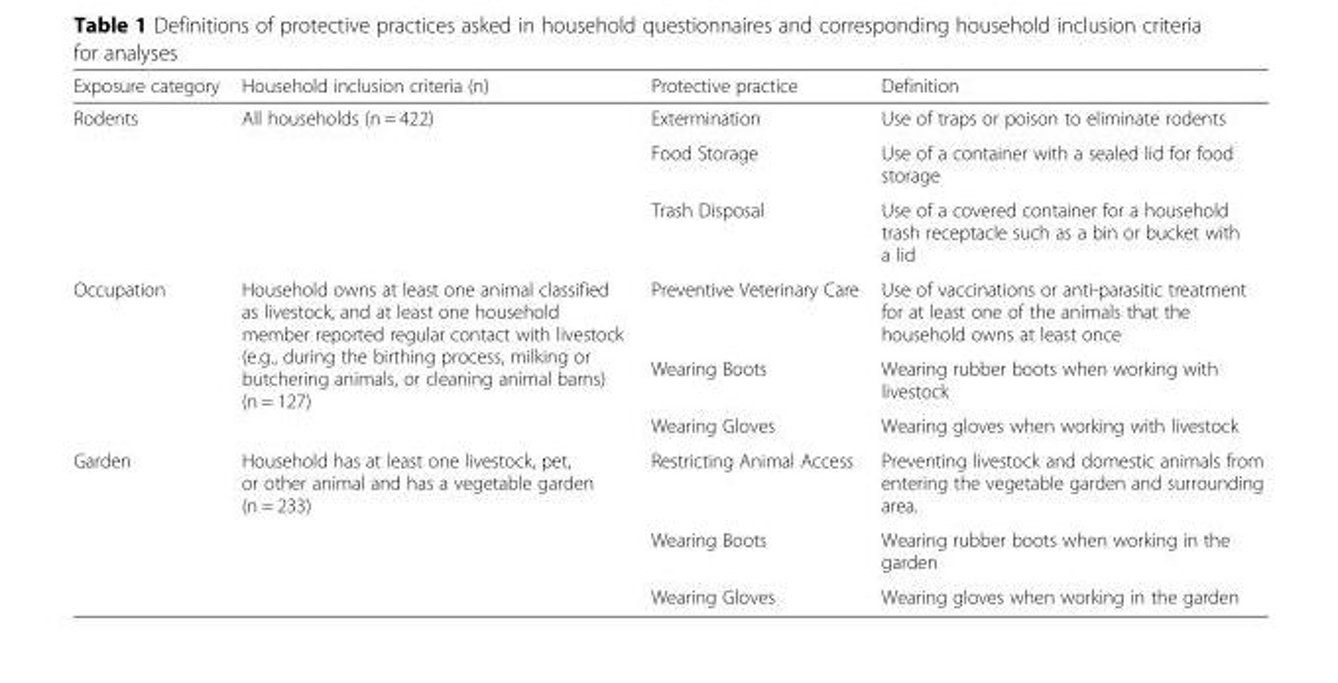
<table><thead><tr><td>Exposure category</td><td>Household inclusion criteria (n)</td><td>Protective practice</td><td>Definition</td></tr></thead><tbody><tr><td rowspan="3">Rodents</td><td rowspan="3">All households (n = 422)</td><td>Extermination</td><td>Use of traps or poison to eliminate rodents</td></tr><tr><td>Food Storage</td><td>Use of a container with a sealed lid for food storage</td></tr><tr><td>Trash Disposal</td><td>Use of a covered container for a household trash receptacle such as a bin or bucket with a lid</td></tr><tr><td rowspan="3">Occupation</td><td rowspan="3">Household owns at least one animal classified as livestock, and at least one household member reported regular contact with livestock (e.g., during the birthing process, milking or butchering animals, or cleaning animal barns) (n = 127)</td><td>Preventive Veterinary Care</td><td>Use of vaccinations or anti-parasitic treatment for at least one of the animals that the household owns at least once</td></tr><tr><td>Wearing Boots</td><td>Wearing rubber boots when working with livestock</td></tr><tr><td>Wearing Gloves</td><td>Wearing gloves when working with livestock</td></tr><tr><td rowspan="3">Garden</td><td rowspan="3">Household has at least one livestock, pet, or other animal and has a vegetable garden (n = 233)</td><td>Restricting Animal Access</td><td>Preventing livestock and domestic animals from entering the vegetable garden and surrounding area.</td></tr><tr><td>Wearing Boots</td><td>Wearing rubber boots when working in the garden</td></tr><tr><td>Wearing Gloves</td><td>Wearing gloves when working in the garden</td></tr></tbody></table>